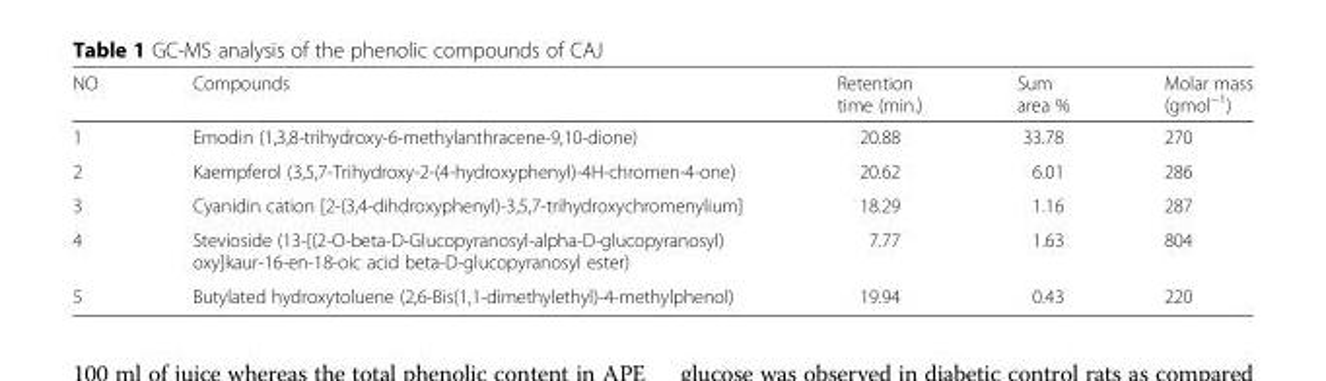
<table><thead><tr><td>NO</td><td>Compounds</td><td>Retention time (min.)</td><td>Sum area %</td><td>Molar mass (gmol<sup>−1</sup>)</td></tr></thead><tbody><tr><td>1</td><td>Emodin (1,3,8-trihydroxy-6-methylanthracene-9,10-dione)</td><td>20.88</td><td>33.78</td><td>270</td></tr><tr><td>2</td><td>Kaempferol (3,5,7-Trihydroxy-2-(4-hydroxyphenyl)-4H-chromen-4-one)</td><td>20.62</td><td>6.01</td><td>286</td></tr><tr><td>3</td><td>Cyanidin cation [2-(3,4-dihdroxyphenyl)-3,5,7-trihydroxychromenylium]</td><td>18.29</td><td>1.16</td><td>287</td></tr><tr><td>4</td><td>Stevioside (13-[(2-O-beta-D-Glucopyranosyl-alpha-D-glucopyranosyl) oxy]kaur-16-en-18-oic acid beta-D-glucopyranosyl ester)</td><td>7.77</td><td>1.63</td><td>804</td></tr><tr><td>5</td><td>Butylated hydroxytoluene (2,6-Bis(1,1-dimethylethyl)-4-methylphenol)</td><td>19.94</td><td>0.43</td><td>220</td></tr></tbody></table>